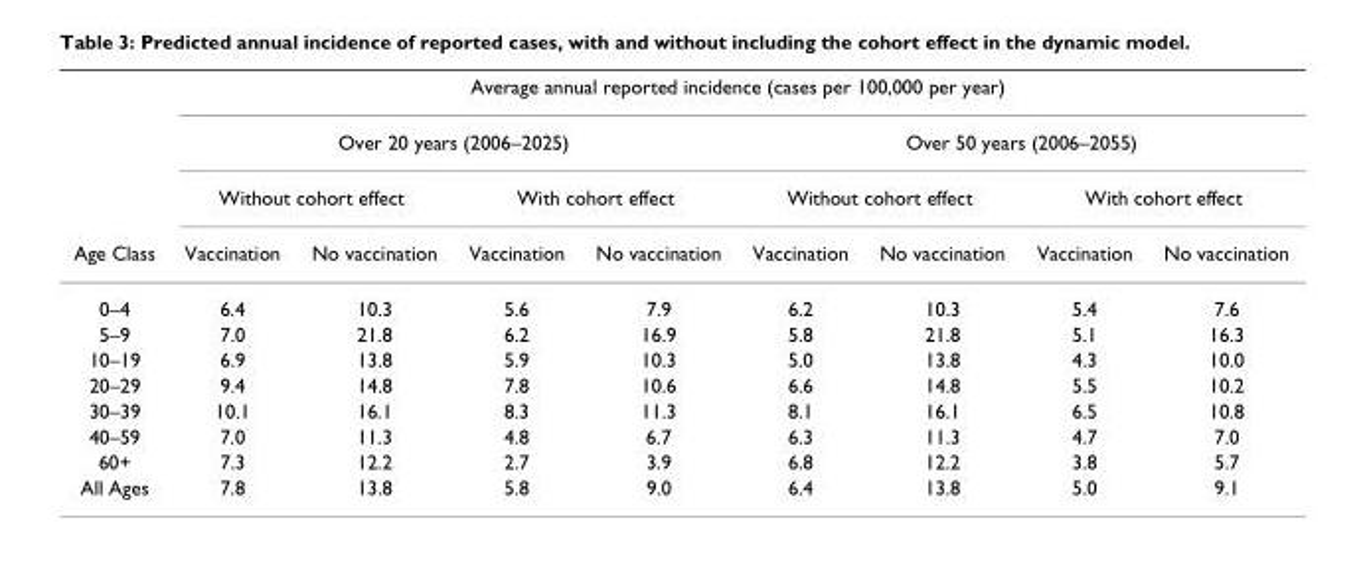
<table><thead><tr><td rowspan="4">Age Class</td><td colspan="8">Average annual reported incidence (cases per 100,000 per year)</td></tr><tr><td colspan="4">Over 20 years (2006–2025)</td><td colspan="4">Over 50 years (2006–2055)</td></tr><tr><td colspan="2">Without cohort effect</td><td colspan="2">With cohort effect</td><td colspan="2">Without cohort effect</td><td colspan="2">With cohort effect</td></tr><tr><td>Vaccination</td><td>No vaccination</td><td>Vaccination</td><td>No vaccination</td><td>Vaccination</td><td>No vaccination</td><td>Vaccination</td><td>No vaccination</td></tr></thead><tbody><tr><td>0–4</td><td>6.4</td><td>10.3</td><td>5.6</td><td>7.9</td><td>6.2</td><td>10.3</td><td>5.4</td><td>7.6</td></tr><tr><td>5–9</td><td>7.0</td><td>21.8</td><td>6.2</td><td>16.9</td><td>5.8</td><td>21.8</td><td>5.1</td><td>16.3</td></tr><tr><td>10–19</td><td>6.9</td><td>13.8</td><td>5.9</td><td>10.3</td><td>5.0</td><td>13.8</td><td>4.3</td><td>10.0</td></tr><tr><td>20–29</td><td>9.4</td><td>14.8</td><td>7.8</td><td>10.6</td><td>6.6</td><td>14.8</td><td>5.5</td><td>10.2</td></tr><tr><td>30–39</td><td>10.1</td><td>16.1</td><td>8.3</td><td>11.3</td><td>8.1</td><td>16.1</td><td>6.5</td><td>10.8</td></tr><tr><td>40–59</td><td>7.0</td><td>11.3</td><td>4.8</td><td>6.7</td><td>6.3</td><td>11.3</td><td>4.7</td><td>7.0</td></tr><tr><td>60+</td><td>7.3</td><td>12.2</td><td>2.7</td><td>3.9</td><td>6.8</td><td>12.2</td><td>3.8</td><td>5.7</td></tr><tr><td>All Ages</td><td>7.8</td><td>13.8</td><td>5.8</td><td>9.0</td><td>6.4</td><td>13.8</td><td>5.0</td><td>9.1</td></tr></tbody></table>